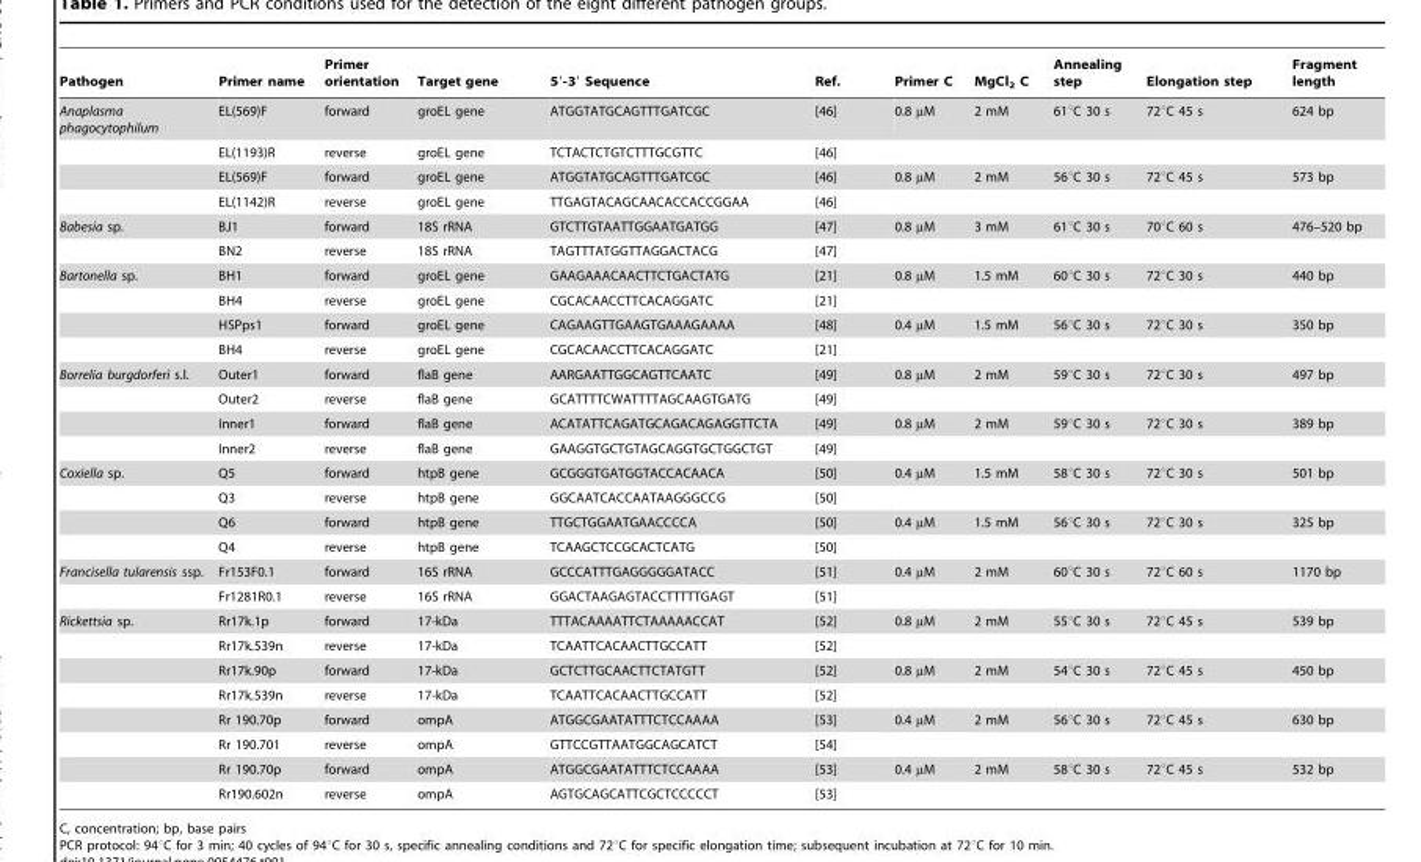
<table><thead><tr><td>Pathogen</td><td>Primer name</td><td>Primer orientation</td><td>Target gene</td><td>5′-3′ Sequence</td><td>Ref.</td><td>Primer C</td><td>MgCl<sub>2</sub> C</td><td>Annealing step</td><td>Elongation step</td><td>Fragment length</td></tr></thead><tbody><tr><td rowspan="4">Anaplasma phagocytophilum</td><td>EL(569)F</td><td>forward</td><td>groEL gene</td><td>ATGGTATGCAGTTTGATCGC</td><td>[46]</td><td>0.8 µM</td><td>2 mM</td><td>61°C 30 s</td><td>72°C 45 s</td><td>624 bp</td></tr><tr><td>EL(1193)R</td><td>reverse</td><td>groEL gene</td><td>TCTACTCTGTCTTTGCGTTC</td><td>[46]</td><td></td><td></td><td></td><td></td><td></td></tr><tr><td>EL(569)F</td><td>forward</td><td>groEL gene</td><td>ATGGTATGCAGTTTGATCGC</td><td>[46]</td><td>0.8 µM</td><td>2 mM</td><td>56°C 30 s</td><td>72°C 45 s</td><td>573 bp</td></tr><tr><td>EL(1142)R</td><td>reverse</td><td>groEL gene</td><td>TTGAGTACAGCAACACCACCGGAA</td><td>[46]</td><td></td><td></td><td></td><td></td><td></td></tr><tr><td rowspan="2">Babesia sp.</td><td>BJ1</td><td>forward</td><td>18S rRNA</td><td>GTCTTGTAATTGGAATGATGG</td><td>[47]</td><td>0.8 µM</td><td>3 mM</td><td>61°C 30 s</td><td>70°C 60 s</td><td>476–520 bp</td></tr><tr><td>BN2</td><td>reverse</td><td>18S rRNA</td><td>TAGTTTATGGTTAGGACTACG</td><td>[47]</td><td></td><td></td><td></td><td></td><td></td></tr><tr><td rowspan="4">Bartonella sp.</td><td>BH1</td><td>forward</td><td>groEL gene</td><td>GAAGAAACAACTTCTGACTATG</td><td>[21]</td><td>0.8 µM</td><td>1.5 mM</td><td>60°C 30 s</td><td>72°C 30 s</td><td>440 bp</td></tr><tr><td>BH4</td><td>reverse</td><td>groEL gene</td><td>CGCACAACCTTCACAGGATC</td><td>[21]</td><td></td><td></td><td></td><td></td><td></td></tr><tr><td>HSPps1</td><td>forward</td><td>groEL gene</td><td>CAGAAGTTGAAGTGAAAGAAAA</td><td>[48]</td><td>0.4 µM</td><td>1.5 mM</td><td>56°C 30 s</td><td>72°C 30 s</td><td>350 bp</td></tr><tr><td>BH4</td><td>reverse</td><td>groEL gene</td><td>CGCACAACCTTCACAGGATC</td><td>[21]</td><td></td><td></td><td></td><td></td><td></td></tr><tr><td rowspan="4">Borrelia burgdorferi s.l.</td><td>Outer1</td><td>forward</td><td>flaB gene</td><td>AARGAATTGGCAGTTCAATC</td><td>[49]</td><td>0.8 µM</td><td>2 mM</td><td>59°C 30 s</td><td>72°C 30 s</td><td>497 bp</td></tr><tr><td>Outer2</td><td>reverse</td><td>flaB gene</td><td>GCATTTTCWATTTTAGCAAGTGATG</td><td>[49]</td><td></td><td></td><td></td><td></td><td></td></tr><tr><td>Inner1</td><td>forward</td><td>flaB gene</td><td>ACATATTCAGATGCAGACAGAGGTTCTA</td><td>[49]</td><td>0.8 µM</td><td>2 mM</td><td>59°C 30 s</td><td>72°C 30 s</td><td>389 bp</td></tr><tr><td>Inner2</td><td>reverse</td><td>flaB gene</td><td>GAAGGTGCTGTAGCAGGTGCTGGCTGT</td><td>[49]</td><td></td><td></td><td></td><td></td><td></td></tr><tr><td rowspan="4">Coxiella sp.</td><td>Q5</td><td>forward</td><td>htpB gene</td><td>GCGGGTGATGGTACCACAACA</td><td>[50]</td><td>0.4 µM</td><td>1.5 mM</td><td>58°C 30 s</td><td>72°C 30 s</td><td>501 bp</td></tr><tr><td>Q3</td><td>reverse</td><td>htpB gene</td><td>GGCAATCACCAATAAGGGCCG</td><td>[50]</td><td></td><td></td><td></td><td></td><td></td></tr><tr><td>Q6</td><td>forward</td><td>htpB gene</td><td>TTGCTGGAATGAACCCCA</td><td>[50]</td><td>0.4 µM</td><td>1.5 mM</td><td>56°C 30 s</td><td>72°C 30 s</td><td>325 bp</td></tr><tr><td>Q4</td><td>reverse</td><td>htpB gene</td><td>TCAAGCTCCGCACTCATG</td><td>[50]</td><td></td><td></td><td></td><td></td><td></td></tr><tr><td rowspan="2">Francisella tularensis ssp.</td><td>Fr153F0.1</td><td>forward</td><td>16S rRNA</td><td>GCCCATTTGAGGGGGATACC</td><td>[51]</td><td>0.4 µM</td><td>2 mM</td><td>60°C 30 s</td><td>72°C 60 s</td><td>1170 bp</td></tr><tr><td>Fr1281R0.1</td><td>reverse</td><td>16S rRNA</td><td>GGACTAAGAGTACCTTTTTGAGT</td><td>[51]</td><td></td><td></td><td></td><td></td><td></td></tr><tr><td rowspan="8">Rickettsia sp.</td><td>Rr17k.1p</td><td>forward</td><td>17-kDa</td><td>TTTACAAAATTCTAAAAACCAT</td><td>[52]</td><td>0.8 µM</td><td>2 mM</td><td>55°C 30 s</td><td>72°C 45 s</td><td>539 bp</td></tr><tr><td>Rr17k.539n</td><td>reverse</td><td>17-kDa</td><td>TCAATTCACAACTTGCCATT</td><td>[52]</td><td></td><td></td><td></td><td></td><td></td></tr><tr><td>Rr17k.90p</td><td>forward</td><td>17-kDa</td><td>GCTCTTGCAACTTCTATGTT</td><td>[52]</td><td>0.8 µM</td><td>2 mM</td><td>54°C 30 s</td><td>72°C 45 s</td><td>450 bp</td></tr><tr><td>Rr17k.539n</td><td>reverse</td><td>17-kDa</td><td>TCAATTCACAACTTGCCATT</td><td>[52]</td><td></td><td></td><td></td><td></td><td></td></tr><tr><td>Rr 190.70p</td><td>forward</td><td>ompA</td><td>ATGGCGAATATTTCTCCAAAA</td><td>[53]</td><td>0.4 µM</td><td>2 mM</td><td>56°C 30 s</td><td>72°C 45 s</td><td>630 bp</td></tr><tr><td>Rr 190.701</td><td>reverse</td><td>ompA</td><td>GTTCCGTTAATGGCAGCATCT</td><td>[54]</td><td></td><td></td><td></td><td></td><td></td></tr><tr><td>Rr 190.70p</td><td>forward</td><td>ompA</td><td>ATGGCGAATATTTCTCCAAAA</td><td>[53]</td><td>0.4 µM</td><td>2 mM</td><td>58°C 30 s</td><td>72°C 45 s</td><td>532 bp</td></tr><tr><td>Rr190.602n</td><td>reverse</td><td>ompA</td><td>AGTGCAGCATTCGCTCCCCCT</td><td>[53]</td><td></td><td></td><td></td><td></td><td></td></tr></tbody></table>